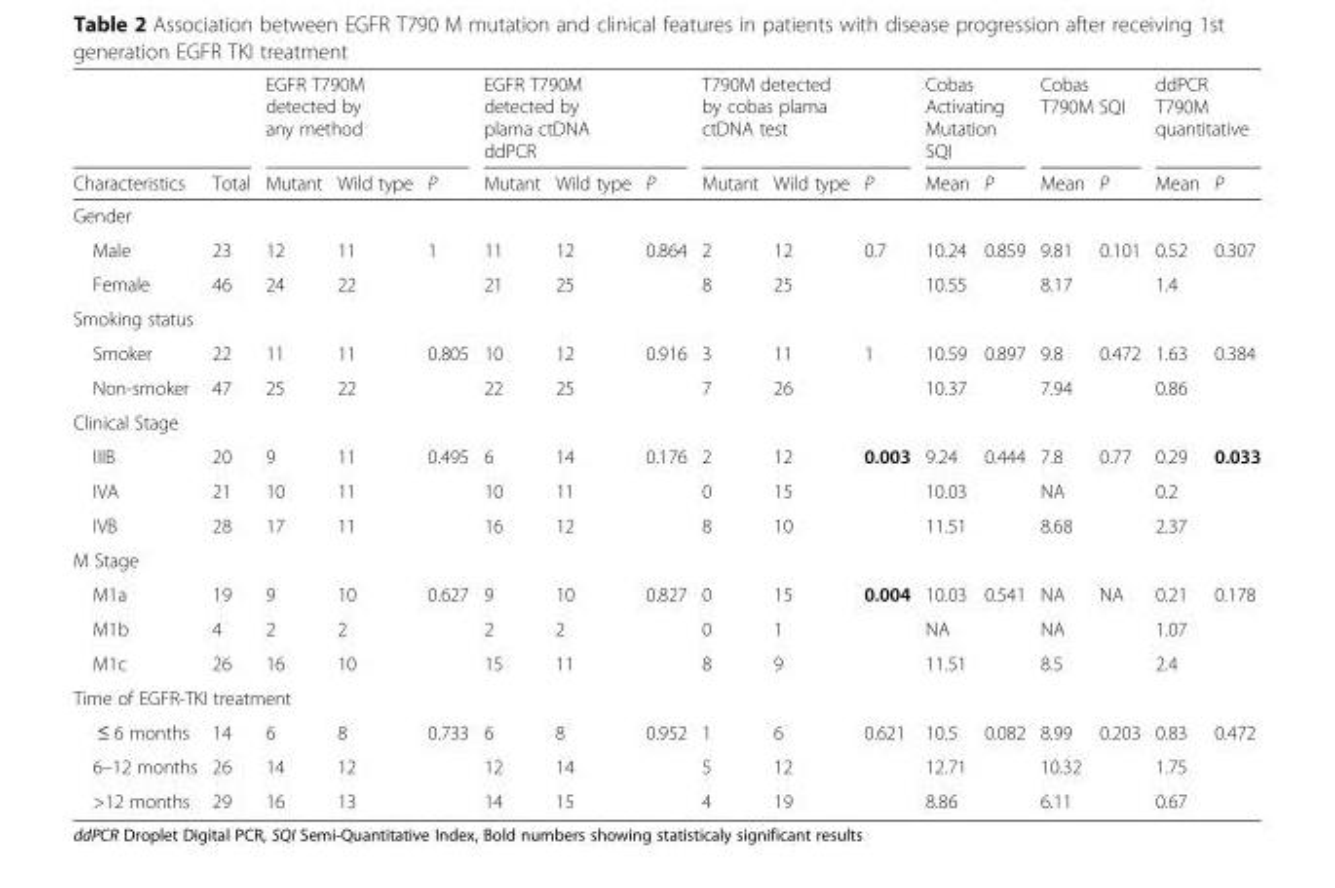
<table><thead><tr><td rowspan="2">Characteristics</td><td rowspan="2">Total</td><td colspan="3">EGFR T790M detected by any method</td><td colspan="3">EGFR T790M detected by plama ctDNA ddPCR</td><td colspan="3">T790M detected by cobas plama ctDNA test</td><td colspan="2">Cobas Activating Mutation SQI</td><td colspan="2">Cobas T790M SQI</td><td colspan="2">ddPCR T790M quantitative</td></tr><tr><td>Mutant</td><td>Wild type</td><td>P</td><td>Mutant</td><td>Wild type</td><td>P</td><td>Mutant</td><td>Wild type</td><td>P</td><td>Mean</td><td>P</td><td>Mean</td><td>P</td><td>Mean</td><td>P</td></tr></thead><tbody><tr><td colspan="17">Gender</td></tr><tr><td>Male</td><td>23</td><td>12</td><td>11</td><td rowspan="2">1</td><td>11</td><td>12</td><td rowspan="2">0.864</td><td>2</td><td>12</td><td rowspan="2">0.7</td><td>10.24</td><td rowspan="2">0.859</td><td>9.81</td><td rowspan="2">0.101</td><td>0.52</td><td rowspan="2">0.307</td></tr><tr><td>Female</td><td>46</td><td>24</td><td>22</td><td>21</td><td>25</td><td>8</td><td>25</td><td>10.55</td><td>8.17</td><td>1.4</td></tr><tr><td colspan="17">Smoking status</td></tr><tr><td>Smoker</td><td>22</td><td>11</td><td>11</td><td rowspan="2">0.805</td><td>10</td><td>12</td><td rowspan="2">0.916</td><td>3</td><td>11</td><td rowspan="2">1</td><td>10.59</td><td rowspan="2">0.897</td><td>9.8</td><td rowspan="2">0.472</td><td>1.63</td><td rowspan="2">0.384</td></tr><tr><td>Non-smoker</td><td>47</td><td>25</td><td>22</td><td>22</td><td>25</td><td>7</td><td>26</td><td>10.37</td><td>7.94</td><td>0.86</td></tr><tr><td colspan="17">Clinical Stage</td></tr><tr><td>IIIB</td><td>20</td><td>9</td><td>11</td><td rowspan="3">0.495</td><td>6</td><td>14</td><td rowspan="3">0.176</td><td>2</td><td>12</td><td rowspan="3">0.003</td><td>9.24</td><td rowspan="3">0.444</td><td>7.8</td><td rowspan="3">0.77</td><td>0.29</td><td rowspan="3">0.033</td></tr><tr><td>IVA</td><td>21</td><td>10</td><td>11</td><td>10</td><td>11</td><td>0</td><td>15</td><td>10.03</td><td>NA</td><td>0.2</td></tr><tr><td>IVB</td><td>28</td><td>17</td><td>11</td><td>16</td><td>12</td><td>8</td><td>10</td><td>11.51</td><td>8.68</td><td>2.37</td></tr><tr><td colspan="17">M Stage</td></tr><tr><td>M1a</td><td>19</td><td>9</td><td>10</td><td rowspan="3">0.627</td><td>9</td><td>10</td><td rowspan="3">0.827</td><td>0</td><td>15</td><td rowspan="3">0.004</td><td>10.03</td><td rowspan="3">0.541</td><td>NA</td><td rowspan="3">NA</td><td>0.21</td><td rowspan="3">0.178</td></tr><tr><td>M1b</td><td>4</td><td>2</td><td>2</td><td>2</td><td>2</td><td>0</td><td>1</td><td>NA</td><td>NA</td><td>1.07</td></tr><tr><td>M1c</td><td>26</td><td>16</td><td>10</td><td>15</td><td>11</td><td>8</td><td>9</td><td>11.51</td><td>8.5</td><td>2.4</td></tr><tr><td colspan="17">Time of EGFR-TKI treatment</td></tr><tr><td>≤ 6 months</td><td>14</td><td>6</td><td>8</td><td rowspan="3">0.733</td><td>6</td><td>8</td><td rowspan="3">0.952</td><td>1</td><td>6</td><td rowspan="3">0.621</td><td>10.5</td><td rowspan="3">0.082</td><td>8.99</td><td rowspan="3">0.203</td><td>0.83</td><td rowspan="3">0.472</td></tr><tr><td>6–12 months</td><td>26</td><td>14</td><td>12</td><td>12</td><td>14</td><td>5</td><td>12</td><td>12.71</td><td>10.32</td><td>1.75</td></tr><tr><td>&gt;12 months</td><td>29</td><td>16</td><td>13</td><td>14</td><td>15</td><td>4</td><td>19</td><td>8.86</td><td>6.11</td><td>0.67</td></tr></tbody></table>